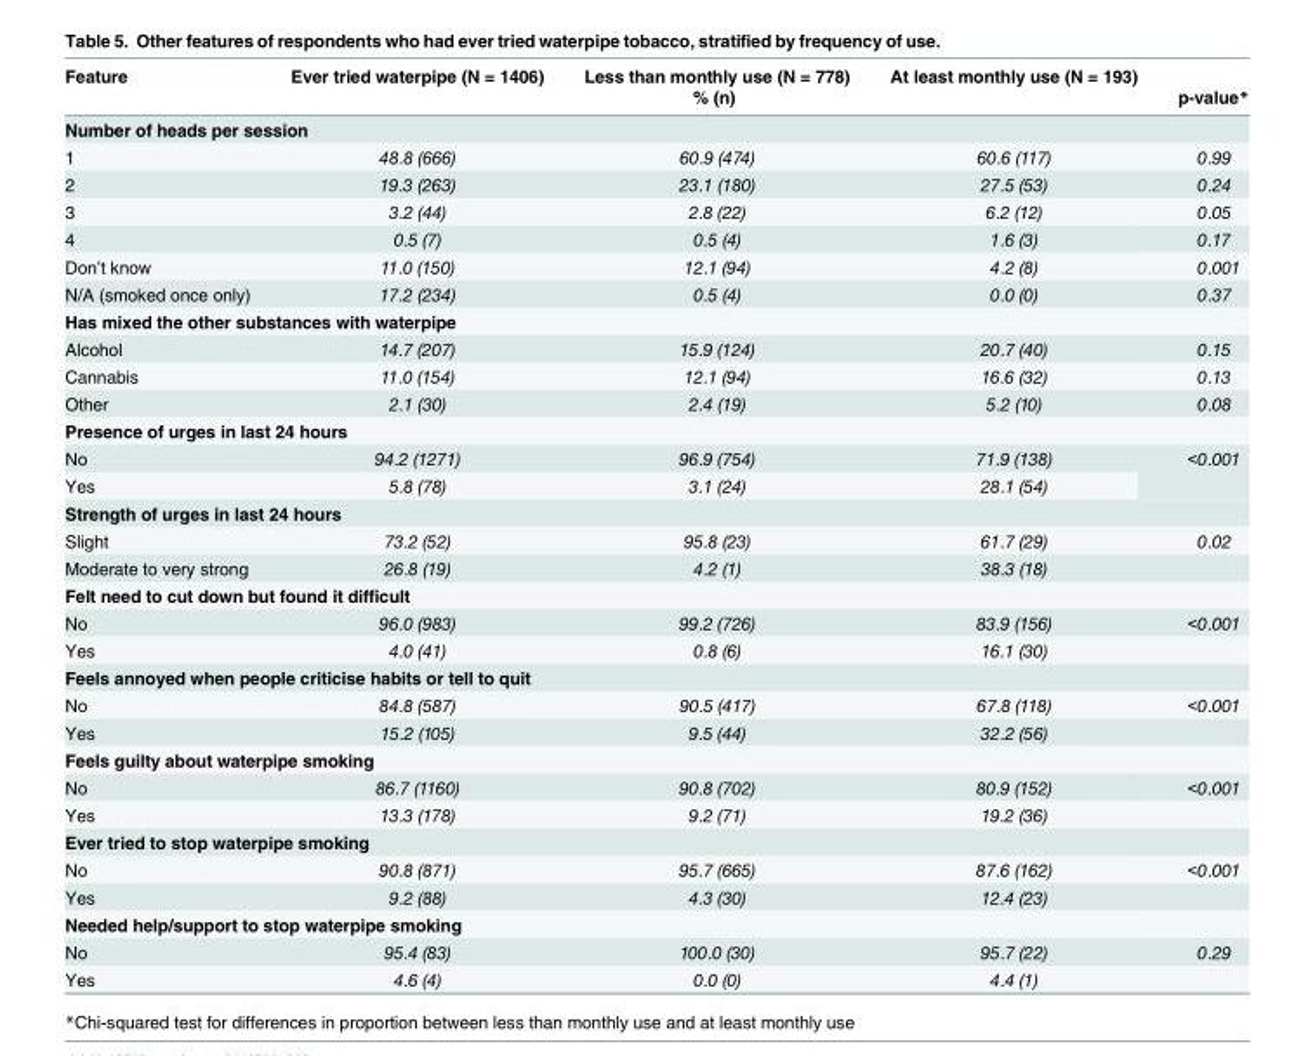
<table><thead><tr><td rowspan="2">Feature</td><td>Ever tried waterpipe (N = 1406)</td><td>Less than monthly use (N = 778)</td><td>At least monthly use (N = 193)</td><td rowspan="2">p-value*</td></tr><tr><td colspan="3">% (n)</td></tr></thead><tbody><tr><td colspan="5">Number of heads per session</td></tr><tr><td>1</td><td>48.8 (666)</td><td>60.9 (474)</td><td>60.6 (117)</td><td>0.99</td></tr><tr><td>2</td><td>19.3 (263)</td><td>23.1 (180)</td><td>27.5 (53)</td><td>0.24</td></tr><tr><td>3</td><td>3.2 (44)</td><td>2.8 (22)</td><td>6.2 (12)</td><td>0.05</td></tr><tr><td>4</td><td>0.5 (7)</td><td>0.5 (4)</td><td>1.6 (3)</td><td>0.17</td></tr><tr><td>Don’t know</td><td>11.0 (150)</td><td>12.1 (94)</td><td>4.2 (8)</td><td>0.001</td></tr><tr><td>N/A (smoked once only)</td><td>17.2 (234)</td><td>0.5 (4)</td><td>0.0 (0)</td><td>0.37</td></tr><tr><td colspan="5">Has mixed the other substances with waterpipe</td></tr><tr><td>Alcohol</td><td>14.7 (207)</td><td>15.9 (124)</td><td>20.7 (40)</td><td>0.15</td></tr><tr><td>Cannabis</td><td>11.0 (154)</td><td>12.1 (94)</td><td>16.6 (32)</td><td>0.13</td></tr><tr><td>Other</td><td>2.1 (30)</td><td>2.4 (19)</td><td>5.2 (10)</td><td>0.08</td></tr><tr><td colspan="5">Presence of urges in last 24 hours</td></tr><tr><td>No</td><td>94.2 (1271)</td><td>96.9 (754)</td><td>71.9 (138)</td><td rowspan="2">&lt;0.001</td></tr><tr><td>Yes</td><td>5.8 (78)</td><td>3.1 (24)</td><td>28.1 (54)</td></tr><tr><td colspan="5">Strength of urges in last 24 hours</td></tr><tr><td>Slight</td><td>73.2 (52)</td><td>95.8 (23)</td><td>61.7 (29)</td><td>0.02</td></tr><tr><td>Moderate to very strong</td><td>26.8 (19)</td><td>4.2 (1)</td><td>38.3 (18)</td><td></td></tr><tr><td colspan="5">Felt need to cut down but found it difficult</td></tr><tr><td>No</td><td>96.0 (983)</td><td>99.2 (726)</td><td>83.9 (156)</td><td>&lt;0.001</td></tr><tr><td>Yes</td><td>4.0 (41)</td><td>0.8 (6)</td><td>16.1 (30)</td><td></td></tr><tr><td colspan="5">Feels annoyed when people criticise habits or tell to quit</td></tr><tr><td>No</td><td>84.8 (587)</td><td>90.5 (417)</td><td>67.8 (118)</td><td>&lt;0.001</td></tr><tr><td>Yes</td><td>15.2 (105)</td><td>9.5 (44)</td><td>32.2 (56)</td><td></td></tr><tr><td colspan="5">Feels guilty about waterpipe smoking</td></tr><tr><td>No</td><td>86.7 (1160)</td><td>90.8 (702)</td><td>80.9 (152)</td><td>&lt;0.001</td></tr><tr><td>Yes</td><td>13.3 (178)</td><td>9.2 (71)</td><td>19.2 (36)</td><td></td></tr><tr><td colspan="5">Ever tried to stop waterpipe smoking</td></tr><tr><td>No</td><td>90.8 (871)</td><td>95.7 (665)</td><td>87.6 (162)</td><td>&lt;0.001</td></tr><tr><td>Yes</td><td>9.2 (88)</td><td>4.3 (30)</td><td>12.4 (23)</td><td></td></tr><tr><td colspan="5">Needed help/support to stop waterpipe smoking</td></tr><tr><td>No</td><td>95.4 (83)</td><td>100.0 (30)</td><td>95.7 (22)</td><td>0.29</td></tr><tr><td>Yes</td><td>4.6 (4)</td><td>0.0 (0)</td><td>4.4 (1)</td><td></td></tr></tbody></table>